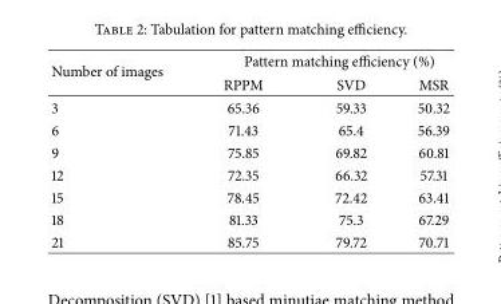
<table><thead><tr><td rowspan="2">Number of images</td><td colspan="3">Pattern matching efficiency (%)</td></tr><tr><td>RPPM</td><td>SVD</td><td>MSR</td></tr></thead><tbody><tr><td>3</td><td>65.36</td><td>59.33</td><td>50.32</td></tr><tr><td>6</td><td>71.43</td><td>65.4</td><td>56.39</td></tr><tr><td>9</td><td>75.85</td><td>69.82</td><td>60.81</td></tr><tr><td>12</td><td>72.35</td><td>66.32</td><td>57.31</td></tr><tr><td>15</td><td>78.45</td><td>72.42</td><td>63.41</td></tr><tr><td>18</td><td>81.33</td><td>75.3</td><td>67.29</td></tr><tr><td>21</td><td>85.75</td><td>79.72</td><td>70.71</td></tr></tbody></table>